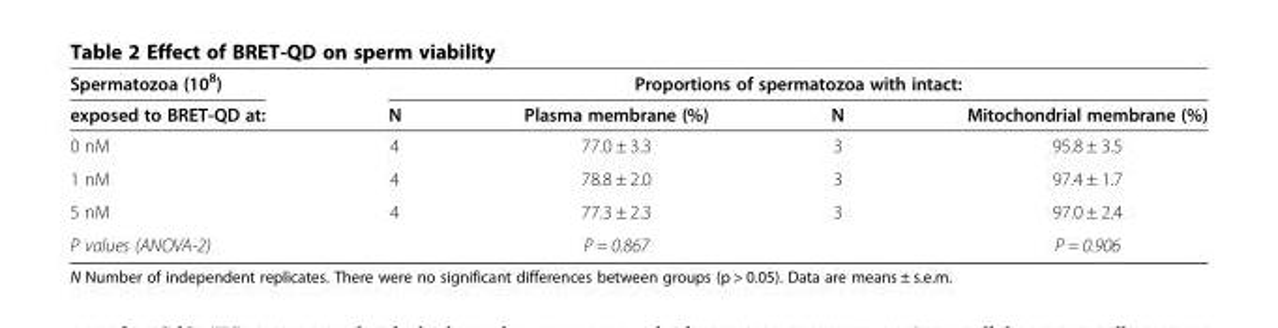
<table><thead><tr><td rowspan="2">Spermatozoa (10<sup>8</sup>) exposed to BRET-QD at:</td><td colspan="4">Proportions of spermatozoa with intact:</td></tr><tr><td>N</td><td>Plasma membrane (%)</td><td>N</td><td>Mitochondrial membrane (%)</td></tr></thead><tbody><tr><td>0 nM</td><td>4</td><td>77.0 ± 3.3</td><td>3</td><td>95.8 ± 3.5</td></tr><tr><td>1 nM</td><td>4</td><td>78.8 ± 2.0</td><td>3</td><td>97.4 ± 1.7</td></tr><tr><td>5 nM</td><td>4</td><td>77.3 ± 2.3</td><td>3</td><td>97.0 ± 2.4</td></tr><tr><td>P values (ANOVA-2)</td><td></td><td>P = 0.867</td><td></td><td>P = 0.906</td></tr></tbody></table>